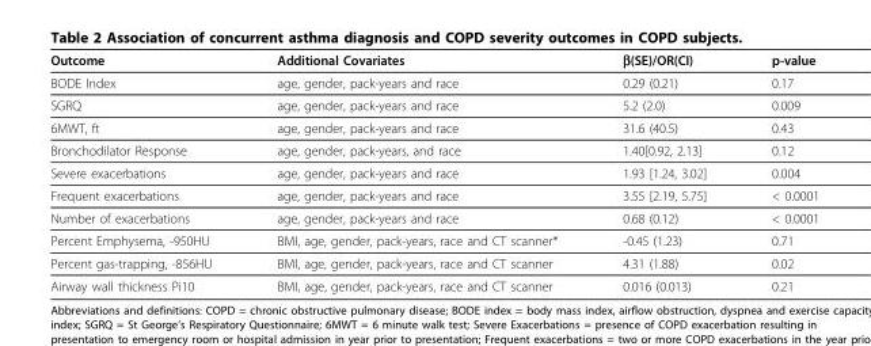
<table><thead><tr><td>Outcome</td><td>Additional Covariates</td><td>β(SE)/OR(CI)</td><td>p-value</td></tr></thead><tbody><tr><td>BODE Index</td><td>age, gender, pack-years and race</td><td>0.29 (0.21)</td><td>0.17</td></tr><tr><td>SGRQ</td><td>age, gender, pack-years and race</td><td>5.2 (2.0)</td><td>0.009</td></tr><tr><td>6MWT, ft</td><td>age, gender, pack-years and race</td><td>31.6 (40.5)</td><td>0.43</td></tr><tr><td>Bronchodilator Response</td><td>age, gender, pack-years, and race</td><td>1.40[0.92, 2.13]</td><td>0.12</td></tr><tr><td>Severe exacerbations</td><td>age, gender, pack-years and race</td><td>1.93 [1.24, 3.02]</td><td>0.004</td></tr><tr><td>Frequent exacerbations</td><td>age, gender, pack-years and race</td><td>3.55 [2.19, 5.75]</td><td>&lt; 0.0001</td></tr><tr><td>Number of exacerbations</td><td>age, gender, pack-years and race</td><td>0.68 (0.12)</td><td>&lt; 0.0001</td></tr><tr><td>Percent Emphysema, -950HU</td><td>BMI, age, gender, pack-years, race and CT scanner*</td><td>-0.45 (1.23)</td><td>0.71</td></tr><tr><td>Percent gas-trapping, -856HU</td><td>BMI, age, gender, pack-years, race and CT scanner</td><td>4.31 (1.88)</td><td>0.02</td></tr><tr><td>Airway wall thickness Pi10</td><td>BMI, age, gender, pack-years, race and CT scanner</td><td>0.016 (0.013)</td><td>0.21</td></tr></tbody></table>